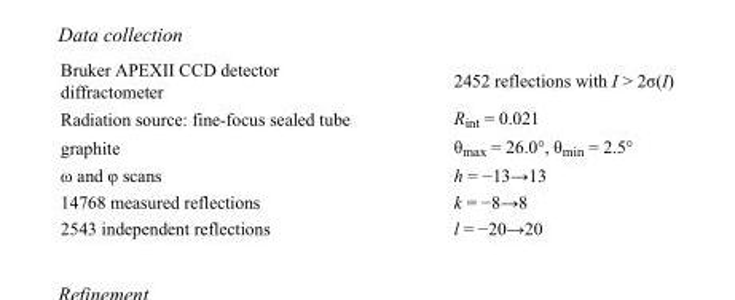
<table><tbody><tr><td>Bruker APEXII CCD detector diffractometer</td><td>2452 reflections with I &gt; 2σ(I)</td></tr><tr><td>Radiation source: fine-focus sealed tube</td><td>R<sub>int</sub> = 0.021</td></tr><tr><td>graphite</td><td>θ<sub>max</sub> = 26.0°, θ<sub>min</sub> = 2.5°</td></tr><tr><td>ω and φ scans</td><td>h = −13→13</td></tr><tr><td>14768 measured reflections</td><td>k = −8→8</td></tr><tr><td>2543 independent reflections</td><td>l = −20→20</td></tr></tbody></table>